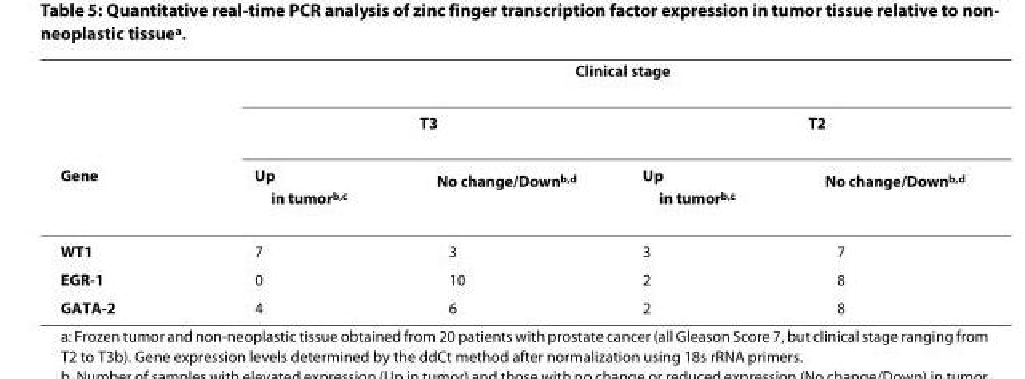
<table><thead><tr><td rowspan="3">Gene</td><td colspan="4">Clinical stage</td></tr><tr><td colspan="2">T3</td><td colspan="2">T2</td></tr><tr><td>Up in tumor<sup>b,c</sup></td><td>No change/Down<sup>b,d</sup></td><td>Up in tumor<sup>b,c</sup></td><td>No change/Down<sup>b,d</sup></td></tr></thead><tbody><tr><td>WT1</td><td>7</td><td>3</td><td>3</td><td>7</td></tr><tr><td>EGR-1</td><td>0</td><td>10</td><td>2</td><td>8</td></tr><tr><td>GATA-2</td><td>4</td><td>6</td><td>2</td><td>8</td></tr></tbody></table>